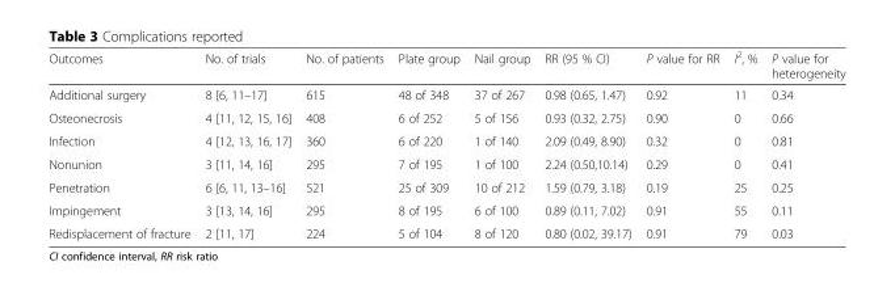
<table><thead><tr><td>Outcomes</td><td>No. of trials</td><td>No. of patients</td><td>Plate group</td><td>Nail group</td><td>RR (95 % CI)</td><td>P value for RR</td><td>I<sup>2</sup>, %</td><td>P value for heterogeneity</td></tr></thead><tbody><tr><td>Additional surgery</td><td>8 [6, 11–17]</td><td>615</td><td>48 of 348</td><td>37 of 267</td><td>0.98 (0.65, 1.47)</td><td>0.92</td><td>11</td><td>0.34</td></tr><tr><td>Osteonecrosis</td><td>4 [11, 12, 15, 16]</td><td>408</td><td>6 of 252</td><td>5 of 156</td><td>0.93 (0.32, 2.75)</td><td>0.90</td><td>0</td><td>0.66</td></tr><tr><td>Infection</td><td>4 [12, 13, 16, 17]</td><td>360</td><td>6 of 220</td><td>1 of 140</td><td>2.09 (0.49, 8.90)</td><td>0.32</td><td>0</td><td>0.81</td></tr><tr><td>Nonunion</td><td>3 [11, 14, 16]</td><td>295</td><td>7 of 195</td><td>1 of 100</td><td>2.24 (0.50,10.14)</td><td>0.29</td><td>0</td><td>0.41</td></tr><tr><td>Penetration</td><td>6 [6, 11, 13–16]</td><td>521</td><td>25 of 309</td><td>10 of 212</td><td>1.59 (0.79, 3.18)</td><td>0.19</td><td>25</td><td>0.25</td></tr><tr><td>Impingement</td><td>3 [13, 14, 16]</td><td>295</td><td>8 of 195</td><td>6 of 100</td><td>0.89 (0.11, 7.02)</td><td>0.91</td><td>55</td><td>0.11</td></tr><tr><td>Redisplacement of fracture</td><td>2 [11, 17]</td><td>224</td><td>5 of 104</td><td>8 of 120</td><td>0.80 (0.02, 39.17)</td><td>0.91</td><td>79</td><td>0.03</td></tr></tbody></table>